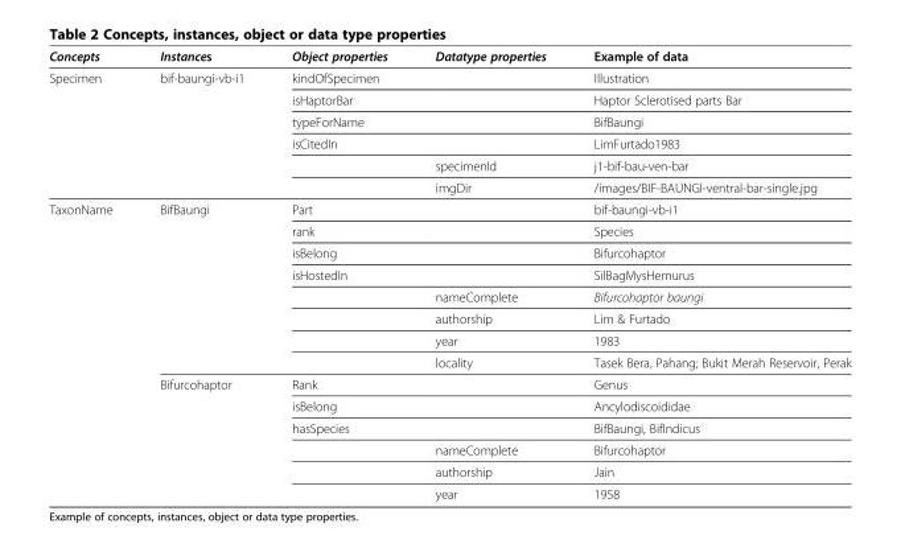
<table><thead><tr><td>Concepts</td><td>Instances</td><td>Object properties</td><td>Datatype properties</td><td>Example of data</td></tr></thead><tbody><tr><td rowspan="6">Specimen</td><td rowspan="6">bif-baungi-vb-i1</td><td>kindOfSpecimen</td><td></td><td>Illustration</td></tr><tr><td>isHaptorBar</td><td></td><td>Haptor Sclerotised parts Bar</td></tr><tr><td>typeForName</td><td></td><td>BifBaungi</td></tr><tr><td>isCitedIn</td><td></td><td>LimFurtado1983</td></tr><tr><td></td><td>specimenId</td><td>j1-bif-bau-ven-bar</td></tr><tr><td></td><td>imgDir</td><td>/images/BIF-BAUNGI-ventral-bar-single.jpg</td></tr><tr><td rowspan="14">TaxonName</td><td rowspan="8">BifBaungi</td><td>Part</td><td></td><td>bif-baungi-vb-i1</td></tr><tr><td>rank</td><td></td><td>Species</td></tr><tr><td>isBelong</td><td></td><td>Bifurcohaptor</td></tr><tr><td>isHostedIn</td><td></td><td>SilBagMysHemurus</td></tr><tr><td></td><td>nameComplete</td><td>Bifurcohaptor baungi</td></tr><tr><td></td><td>authorship</td><td>Lim &amp; Furtado</td></tr><tr><td></td><td>year</td><td>1983</td></tr><tr><td></td><td>locality</td><td>Tasek Bera, Pahang; Bukit Merah Reservoir, Perak</td></tr><tr><td rowspan="6">Bifurcohaptor</td><td>Rank</td><td></td><td>Genus</td></tr><tr><td>isBelong</td><td></td><td>Ancylodiscoididae</td></tr><tr><td>hasSpecies</td><td></td><td>BifBaungi, BifIndicus</td></tr><tr><td></td><td>nameComplete</td><td>Bifurcohaptor</td></tr><tr><td></td><td>authorship</td><td>Jain</td></tr><tr><td></td><td>year</td><td>1958</td></tr></tbody></table>